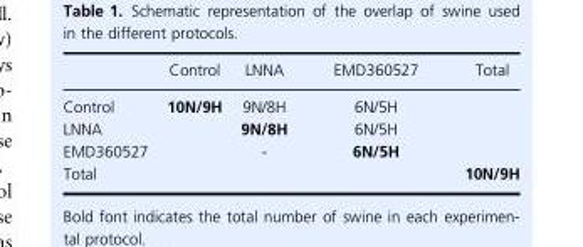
<table><thead><tr><td></td><td>Control</td><td>LNNA</td><td>EMD360527</td><td>Total</td></tr></thead><tbody><tr><td>Control</td><td>10N/9H</td><td>9N/8H</td><td>6N/5H</td><td></td></tr><tr><td>LNNA</td><td></td><td>9N/8H</td><td>6N/5H</td><td></td></tr><tr><td>EMD360527</td><td></td><td>-</td><td>6N/5H</td><td></td></tr><tr><td>Total</td><td></td><td></td><td></td><td>10N/9H</td></tr></tbody></table>